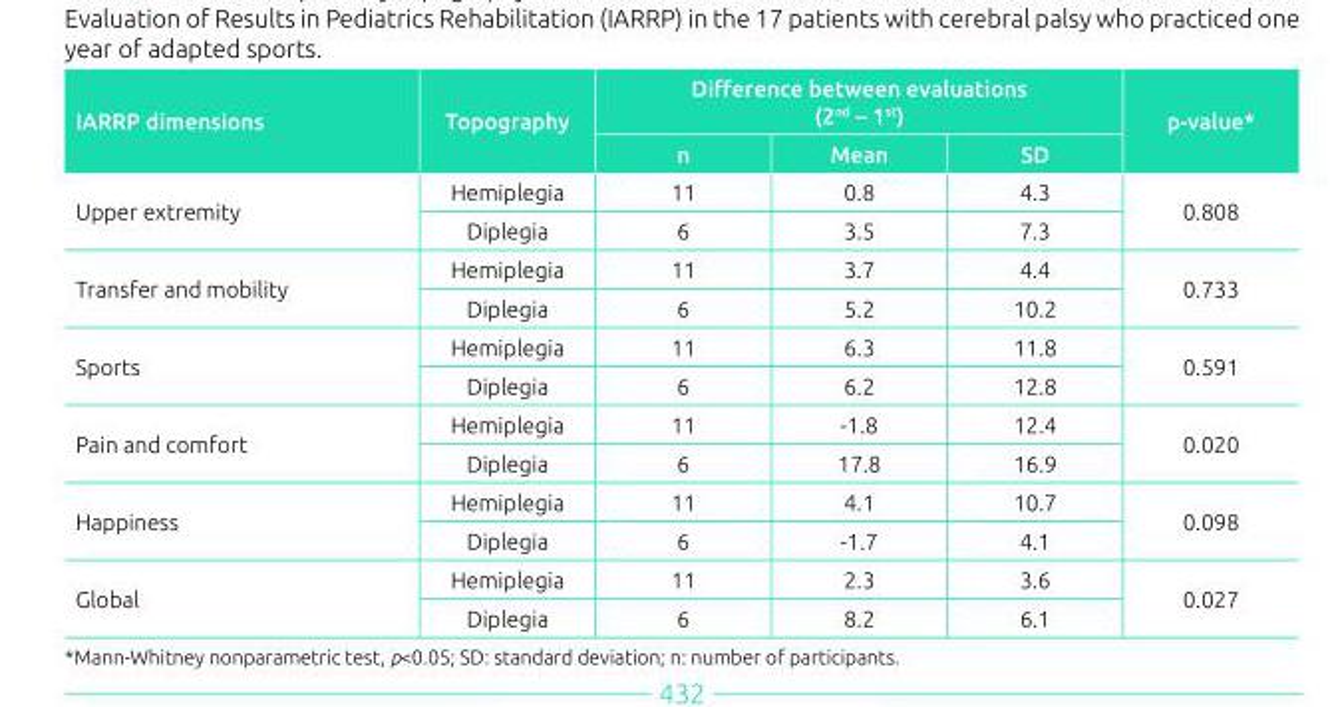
<table><thead><tr><td rowspan="2">IARRP dimensions</td><td rowspan="2">Topography</td><td colspan="3">Difference between evaluations (2<sup>nd</sup> – 1<sup>st</sup>)</td><td rowspan="2">p-value*</td></tr><tr><td>n</td><td>Mean</td><td>SD</td></tr></thead><tbody><tr><td rowspan="2">Upper extremity</td><td>Hemiplegia</td><td>11</td><td>0.8</td><td>4.3</td><td rowspan="2">0.808</td></tr><tr><td>Diplegia</td><td>6</td><td>3.5</td><td>7.3</td></tr><tr><td rowspan="2">Transfer and mobility</td><td>Hemiplegia</td><td>11</td><td>3.7</td><td>4.4</td><td rowspan="2">0.733</td></tr><tr><td>Diplegia</td><td>6</td><td>5.2</td><td>10.2</td></tr><tr><td rowspan="2">Sports</td><td>Hemiplegia</td><td>11</td><td>6.3</td><td>11.8</td><td rowspan="2">0.591</td></tr><tr><td>Diplegia</td><td>6</td><td>6.2</td><td>12.8</td></tr><tr><td rowspan="2">Pain and comfort</td><td>Hemiplegia</td><td>11</td><td>-1.8</td><td>12.4</td><td rowspan="2">0.020</td></tr><tr><td>Diplegia</td><td>6</td><td>17.8</td><td>16.9</td></tr><tr><td rowspan="2">Happiness</td><td>Hemiplegia</td><td>11</td><td>4.1</td><td>10.7</td><td rowspan="2">0.098</td></tr><tr><td>Diplegia</td><td>6</td><td>-1.7</td><td>4.1</td></tr><tr><td rowspan="2">Global</td><td>Hemiplegia</td><td>11</td><td>2.3</td><td>3.6</td><td rowspan="2">0.027</td></tr><tr><td>Diplegia</td><td>6</td><td>8.2</td><td>6.1</td></tr></tbody></table>